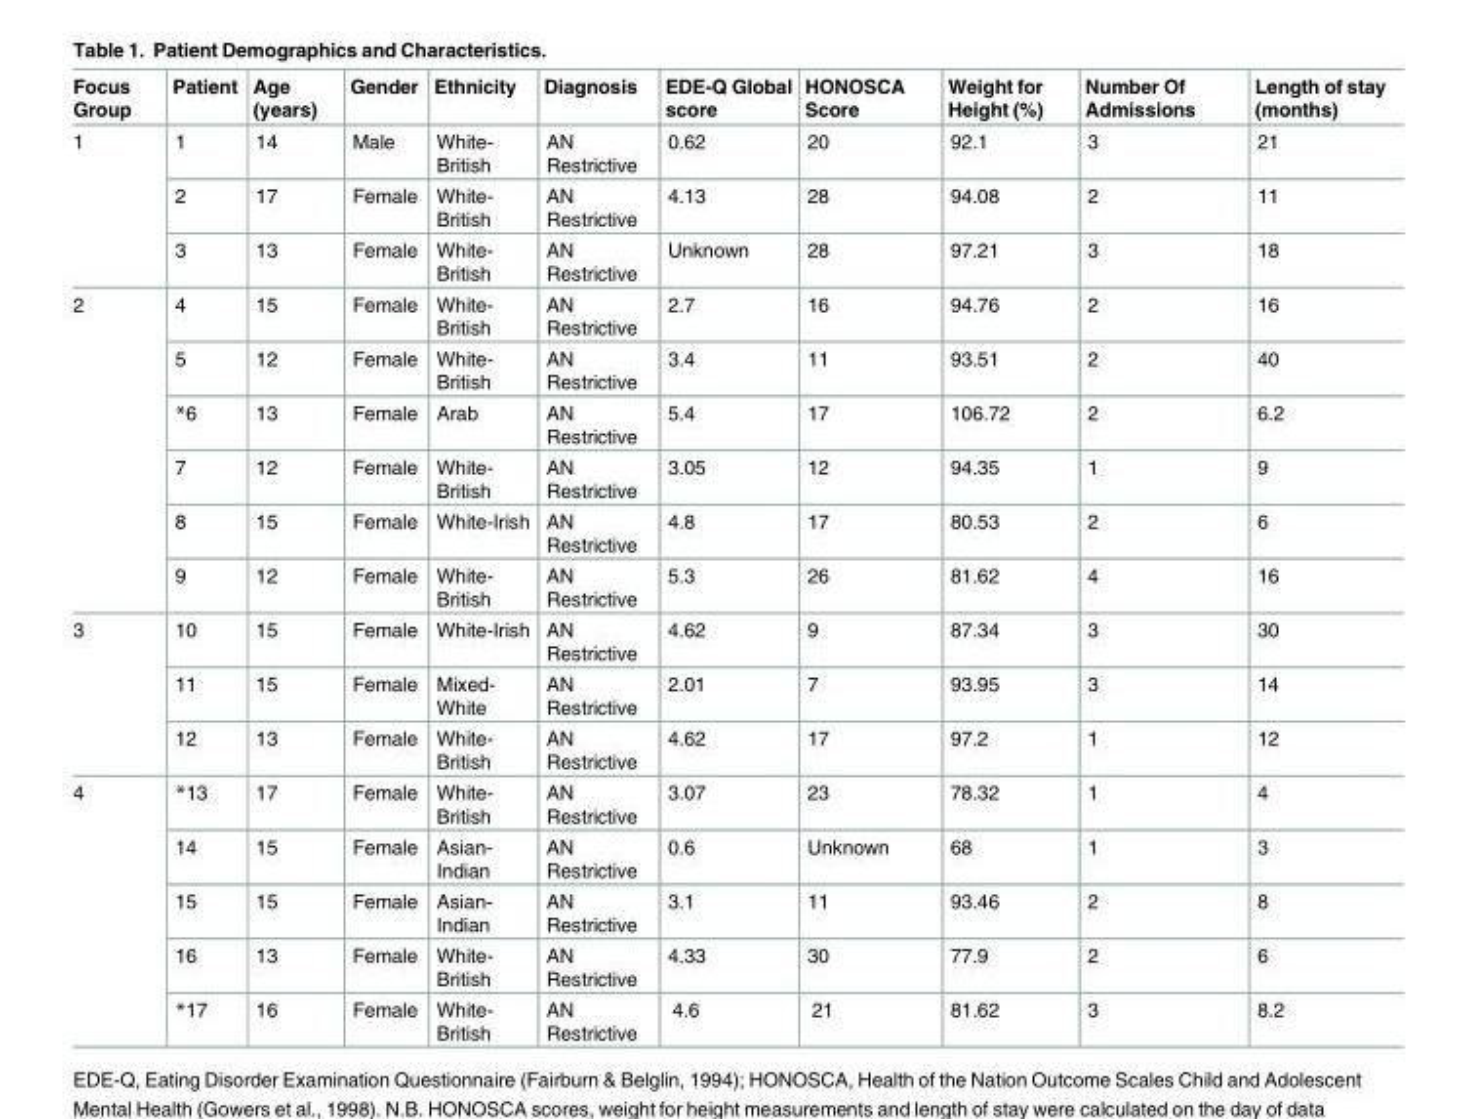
<table><thead><tr><td>Focus Group</td><td>Patient</td><td>Age (years)</td><td>Gender</td><td>Ethnicity</td><td>Diagnosis</td><td>EDE-Q Global score</td><td>HONOSCA Score</td><td>Weight for Height (%)</td><td>Number Of Admissions</td><td>Length of stay (months)</td></tr></thead><tbody><tr><td rowspan="3">1</td><td>1</td><td>14</td><td>Male</td><td>White- British</td><td>AN Restrictive</td><td>0.62</td><td>20</td><td>92.1</td><td>3</td><td>21</td></tr><tr><td>2</td><td>17</td><td>Female</td><td>White- British</td><td>AN Restrictive</td><td>4.13</td><td>28</td><td>94.08</td><td>2</td><td>11</td></tr><tr><td>3</td><td>13</td><td>Female</td><td>White- British</td><td>AN Restrictive</td><td>Unknown</td><td>28</td><td>97.21</td><td>3</td><td>18</td></tr><tr><td rowspan="6">2</td><td>4</td><td>15</td><td>Female</td><td>White- British</td><td>AN Restrictive</td><td>2.7</td><td>16</td><td>94.76</td><td>2</td><td>16</td></tr><tr><td>5</td><td>12</td><td>Female</td><td>White- British</td><td>AN Restrictive</td><td>3.4</td><td>11</td><td>93.51</td><td>2</td><td>40</td></tr><tr><td>*6</td><td>13</td><td>Female</td><td>Arab</td><td>AN Restrictive</td><td>5.4</td><td>17</td><td>106.72</td><td>2</td><td>6.2</td></tr><tr><td>7</td><td>12</td><td>Female</td><td>White- British</td><td>AN Restrictive</td><td>3.05</td><td>12</td><td>94.35</td><td>1</td><td>9</td></tr><tr><td>8</td><td>15</td><td>Female</td><td>White-Irish</td><td>AN Restrictive</td><td>4.8</td><td>17</td><td>80.53</td><td>2</td><td>6</td></tr><tr><td>9</td><td>12</td><td>Female</td><td>White- British</td><td>AN Restrictive</td><td>5.3</td><td>26</td><td>81.62</td><td>4</td><td>16</td></tr><tr><td rowspan="3">3</td><td>10</td><td>15</td><td>Female</td><td>White-Irish</td><td>AN Restrictive</td><td>4.62</td><td>9</td><td>87.34</td><td>3</td><td>30</td></tr><tr><td>11</td><td>15</td><td>Female</td><td>Mixed- White</td><td>AN Restrictive</td><td>2.01</td><td>7</td><td>93.95</td><td>3</td><td>14</td></tr><tr><td>12</td><td>13</td><td>Female</td><td>White- British</td><td>AN Restrictive</td><td>4.62</td><td>17</td><td>97.2</td><td>1</td><td>12</td></tr><tr><td rowspan="5">4</td><td>*13</td><td>17</td><td>Female</td><td>White- British</td><td>AN Restrictive</td><td>3.07</td><td>23</td><td>78.32</td><td>1</td><td>4</td></tr><tr><td>14</td><td>15</td><td>Female</td><td>Asian- Indian</td><td>AN Restrictive</td><td>0.6</td><td>Unknown</td><td>68</td><td>1</td><td>3</td></tr><tr><td>15</td><td>15</td><td>Female</td><td>Asian- Indian</td><td>AN Restrictive</td><td>3.1</td><td>11</td><td>93.46</td><td>2</td><td>8</td></tr><tr><td>16</td><td>13</td><td>Female</td><td>White- British</td><td>AN Restrictive</td><td>4.33</td><td>30</td><td>77.9</td><td>2</td><td>6</td></tr><tr><td>*17</td><td>16</td><td>Female</td><td>White- British</td><td>AN Restrictive</td><td>4.6</td><td>21</td><td>81.62</td><td>3</td><td>8.2</td></tr></tbody></table>